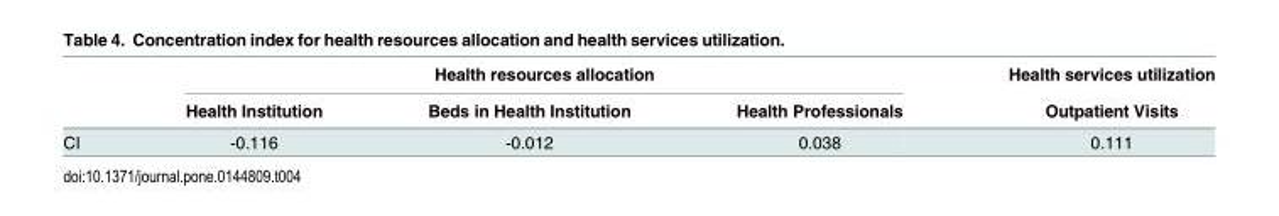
<table><thead><tr><td rowspan="2"></td><td colspan="3">Health resources allocation</td><td rowspan="2">Health services utilization Outpatient Visits</td></tr><tr><td>Health Institution</td><td>Beds in Health Institution</td><td>Health Professionals</td></tr></thead><tbody><tr><td>CI</td><td>-0.116</td><td>-0.012</td><td>0.038</td><td>0.111</td></tr></tbody></table>